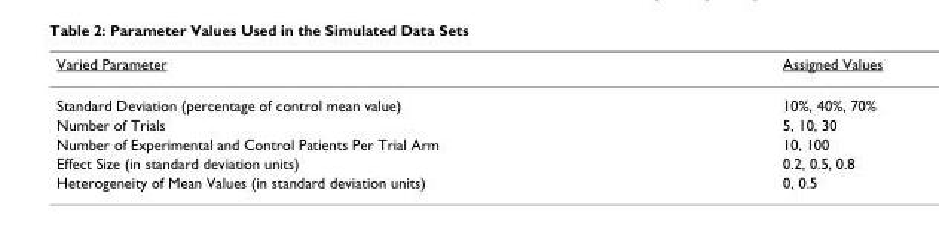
<table><thead><tr><td>Varied Parameter</td><td>Assigned Values</td></tr></thead><tbody><tr><td>Standard Deviation (percentage of control mean value)</td><td>10%, 40%, 70%</td></tr><tr><td>Number of Trials</td><td>5, 10, 30</td></tr><tr><td>Number of Experimental and Control Patients Per Trial Arm</td><td>10, 100</td></tr><tr><td>Effect Size (in standard deviation units)</td><td>0.2, 0.5, 0.8</td></tr><tr><td>Heterogeneity of Mean Values (in standard deviation units)</td><td>0, 0.5</td></tr></tbody></table>